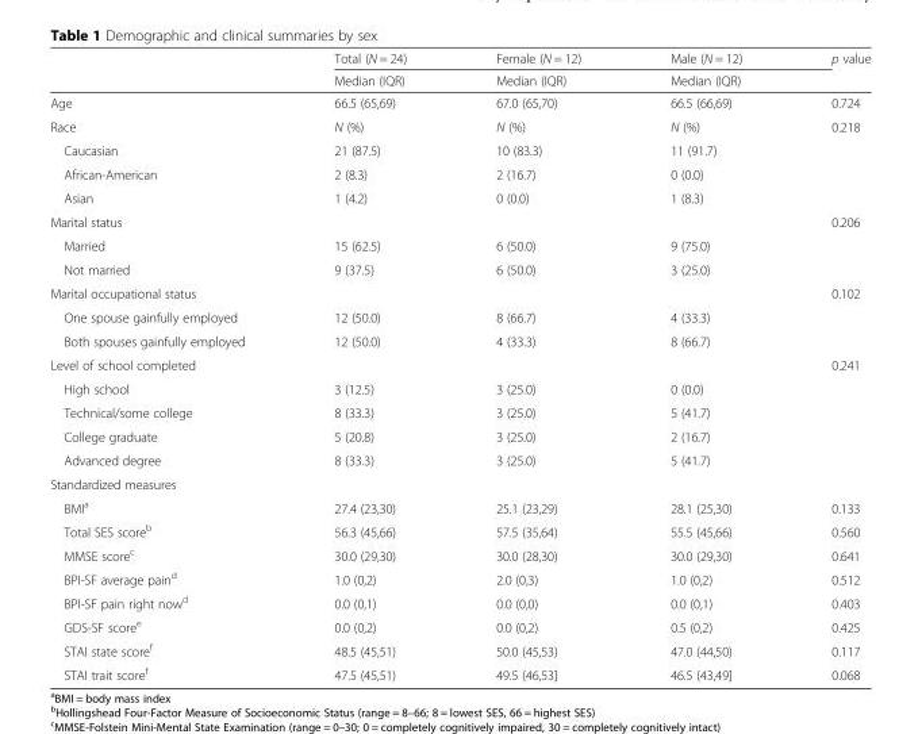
<table><thead><tr><td rowspan="2"></td><td rowspan="2">Total (N = 24) Median (IQR)</td><td rowspan="2">Female (N = 12) Median (IQR)</td><td rowspan="2">Male (N = 12) Median (IQR)</td><td rowspan="2">p value</td></tr><tr></tr></thead><tbody><tr><td>Age</td><td>66.5 (65,69)</td><td>67.0 (65,70)</td><td>66.5 (66,69)</td><td>0.724</td></tr><tr><td>Race</td><td>N (%)</td><td>N (%)</td><td>N (%)</td><td>0.218</td></tr><tr><td>Caucasian</td><td>21 (87.5)</td><td>10 (83.3)</td><td>11 (91.7)</td><td></td></tr><tr><td>African-American</td><td>2 (8.3)</td><td>2 (16.7)</td><td>0 (0.0)</td><td></td></tr><tr><td>Asian</td><td>1 (4.2)</td><td>0 (0.0)</td><td>1 (8.3)</td><td></td></tr><tr><td>Marital status</td><td></td><td></td><td></td><td>0.206</td></tr><tr><td>Married</td><td>15 (62.5)</td><td>6 (50.0)</td><td>9 (75.0)</td><td></td></tr><tr><td>Not married</td><td>9 (37.5)</td><td>6 (50.0)</td><td>3 (25.0)</td><td></td></tr><tr><td>Marital occupational status</td><td></td><td></td><td></td><td>0.102</td></tr><tr><td>One spouse gainfully employed</td><td>12 (50.0)</td><td>8 (66.7)</td><td>4 (33.3)</td><td></td></tr><tr><td>Both spouses gainfully employed</td><td>12 (50.0)</td><td>4 (33.3)</td><td>8 (66.7)</td><td></td></tr><tr><td>Level of school completed</td><td></td><td></td><td></td><td>0.241</td></tr><tr><td>High school</td><td>3 (12.5)</td><td>3 (25.0)</td><td>0 (0.0)</td><td></td></tr><tr><td>Technical/some college</td><td>8 (33.3)</td><td>3 (25.0)</td><td>5 (41.7)</td><td></td></tr><tr><td>College graduate</td><td>5 (20.8)</td><td>3 (25.0)</td><td>2 (16.7)</td><td></td></tr><tr><td>Advanced degree</td><td>8 (33.3)</td><td>3 (25.0)</td><td>5 (41.7)</td><td></td></tr><tr><td colspan="5">Standardized measures</td></tr><tr><td>BMI<sup>a</sup></td><td>27.4 (23,30)</td><td>25.1 (23,29)</td><td>28.1 (25,30)</td><td>0.133</td></tr><tr><td>Total SES score<sup>b</sup></td><td>56.3 (45,66)</td><td>57.5 (35,64)</td><td>55.5 (45,66)</td><td>0.560</td></tr><tr><td>MMSE score<sup>c</sup></td><td>30.0 (29,30)</td><td>30.0 (28,30)</td><td>30.0 (29,30)</td><td>0.641</td></tr><tr><td>BPI-SF average pain<sup>d</sup></td><td>1.0 (0,2)</td><td>2.0 (0,3)</td><td>1.0 (0,2)</td><td>0.512</td></tr><tr><td>BPI-SF pain right now<sup>d</sup></td><td>0.0 (0,1)</td><td>0.0 (0,0)</td><td>0.0 (0,1)</td><td>0.403</td></tr><tr><td>GDS-SF score<sup>e</sup></td><td>0.0 (0,2)</td><td>0.0 (0,2)</td><td>0.5 (0,2)</td><td>0.425</td></tr><tr><td>STAI state score<sup>f</sup></td><td>48.5 (45,51)</td><td>50.0 (45,53)</td><td>47.0 (44,50)</td><td>0.117</td></tr><tr><td>STAI trait score<sup>f</sup></td><td>47.5 (45,51)</td><td>49.5 (46,53]</td><td>46.5 (43,49]</td><td>0.068</td></tr></tbody></table>